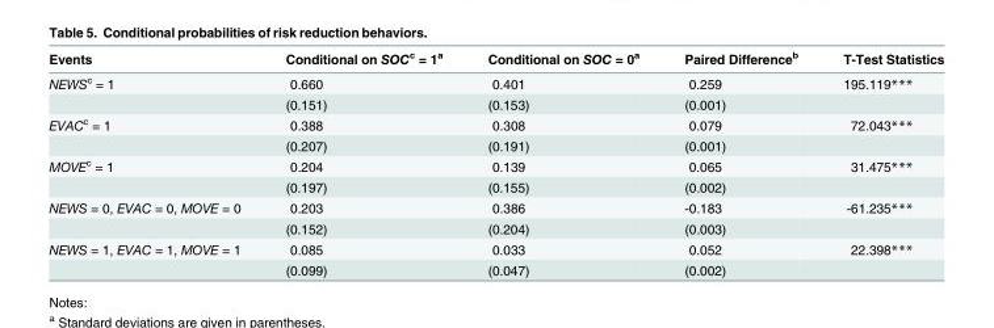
<table><thead><tr><td>Events</td><td>Conditional on SOC<sup>c</sup> = 1<sup>a</sup></td><td>Conditional on SOC = 0<sup>a</sup></td><td>Paired Difference<sup>b</sup></td><td>T-Test Statistics</td></tr></thead><tbody><tr><td rowspan="2">NEWS<sup>c</sup> = 1</td><td>0.660</td><td>0.401</td><td>0.259</td><td>195.119***</td></tr><tr><td>(0.151)</td><td>(0.153)</td><td>(0.001)</td><td></td></tr><tr><td rowspan="2">EVAC<sup>c</sup> = 1</td><td>0.388</td><td>0.308</td><td>0.079</td><td>72.043***</td></tr><tr><td>(0.207)</td><td>(0.191)</td><td>(0.001)</td><td></td></tr><tr><td rowspan="2">MOVE<sup>c</sup> = 1</td><td>0.204</td><td>0.139</td><td>0.065</td><td>31.475***</td></tr><tr><td>(0.197)</td><td>(0.155)</td><td>(0.002)</td><td></td></tr><tr><td rowspan="2">NEWS = 0, EVAC = 0, MOVE = 0</td><td>0.203</td><td>0.386</td><td>-0.183</td><td>-61.235***</td></tr><tr><td>(0.152)</td><td>(0.204)</td><td>(0.003)</td><td></td></tr><tr><td rowspan="2">NEWS = 1, EVAC = 1, MOVE = 1</td><td>0.085</td><td>0.033</td><td>0.052</td><td>22.398***</td></tr><tr><td>(0.099)</td><td>(0.047)</td><td>(0.002)</td><td></td></tr></tbody></table>